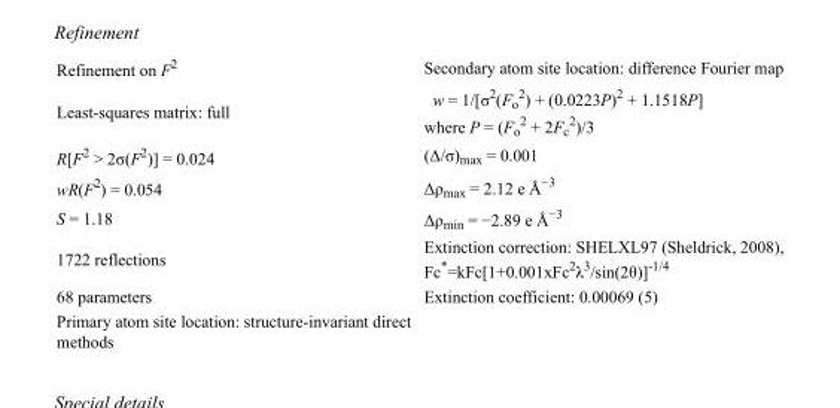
<table><tbody><tr><td>Refinement on F<sup>2</sup></td><td>Secondary atom site location: difference Fourier map</td></tr><tr><td>Least-squares matrix: full</td><td>w = 1/[σ<sup>2</sup>(F<sub>o</sub> <sup>2</sup>) + (0.0223P)<sup>2</sup> + 1.1518P] where P = (F<sub>o</sub> <sup>2</sup> + 2F<sub>c</sub> <sup>2</sup>)/3</td></tr><tr><td>R[F<sup>2</sup> &gt; 2σ(F<sup>2</sup>)] = 0.024</td><td>(Δ/σ)<sub>max</sub> = 0.001</td></tr><tr><td>wR(F<sup>2</sup>) = 0.054</td><td>Δρ<sub>max</sub> = 2.12 e Å<sup>−3</sup></td></tr><tr><td>S = 1.18</td><td>Δρ<sub>min</sub> = −2.89 e Å<sup>−3</sup></td></tr><tr><td>1722 reflections</td><td>Extinction correction: SHELXL97 (Sheldrick, 2008), Fc*=kFc[1+0.001xFc<sup>2</sup>λ<sup>3</sup>/sin(2θ)]<sup>-1/4</sup></td></tr><tr><td>68 parameters</td><td>Extinction coefficient: 0.00069 (5)</td></tr><tr><td>Primary atom site location: structure-invariant direct methods</td><td></td></tr></tbody></table>